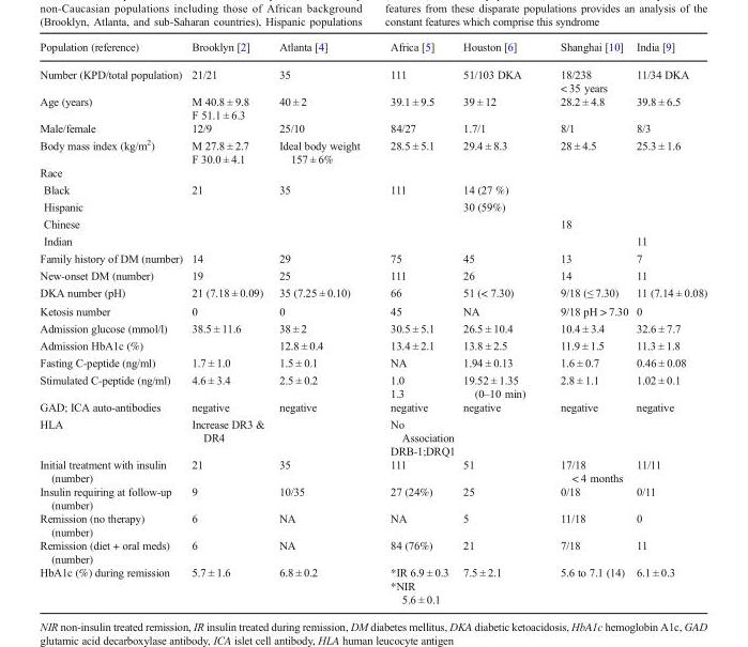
<table><thead><tr><td>Population (reference)</td><td>Brooklyn [2]</td><td>Atlanta [4]</td><td>Africa [5]</td><td>Houston [6]</td><td>Shanghai [10]</td><td>India [9]</td></tr></thead><tbody><tr><td>Number (KPD/total population)</td><td>21/21</td><td>35</td><td>111</td><td>51/103 DKA</td><td>18/238 &lt; 35 years</td><td>11/34 DKA</td></tr><tr><td>Age (years)</td><td>M 40.8 ± 9.8 F 51.1 ± 6.3</td><td>40 ± 2</td><td>39.1 ± 9.5</td><td>39 ± 12</td><td>28.2 ± 4.8</td><td>39.8 ± 6.5</td></tr><tr><td>Male/female</td><td>12/9</td><td>25/10</td><td>84/27</td><td>1.7/1</td><td>8/1</td><td>8/3</td></tr><tr><td>Body mass index (kg/m<sup>2</sup>)</td><td>M 27.8 ± 2.7 F 30.0 ± 4.1</td><td>Ideal body weight 157 ± 6%</td><td>28.5 ± 5.1</td><td>29.4 ± 8.3</td><td>28 ± 4.5</td><td>25.3 ± 1.6</td></tr><tr><td colspan="7">Race</td></tr><tr><td>Black</td><td>21</td><td>35</td><td>111</td><td>14 (27 %)</td><td></td><td></td></tr><tr><td>Hispanic</td><td></td><td></td><td></td><td>30 (59%)</td><td></td><td></td></tr><tr><td>Chinese</td><td></td><td></td><td></td><td></td><td>18</td><td></td></tr><tr><td>Indian</td><td></td><td></td><td></td><td></td><td></td><td>11</td></tr><tr><td>Family history of DM (number)</td><td>14</td><td>29</td><td>75</td><td>45</td><td>13</td><td>7</td></tr><tr><td>New-onset DM (number)</td><td>19</td><td>25</td><td>111</td><td>26</td><td>14</td><td>11</td></tr><tr><td>DKA number (pH)</td><td>21 (7.18 ± 0.09)</td><td>35 (7.25 ± 0.10)</td><td>66</td><td>51 (&lt; 7.30)</td><td>9/18 (≤ 7.30)</td><td>11 (7.14 ± 0.08)</td></tr><tr><td>Ketosis number</td><td>0</td><td>0</td><td>45</td><td>NA</td><td>9/18 pH &gt; 7.30</td><td>0</td></tr><tr><td>Admission glucose (mmol/l)</td><td>38.5 ± 11.6</td><td>38 ± 2</td><td>30.5 ± 5.1</td><td>26.5 ± 10.4</td><td>10.4 ± 3.4</td><td>32.6 ± 7.7</td></tr><tr><td>Admission HbA1c (%)</td><td></td><td>12.8 ± 0.4</td><td>13.4 ± 2.1</td><td>13.8 ± 2.5</td><td>11.9 ± 1.5</td><td>11.3 ± 1.8</td></tr><tr><td>Fasting C-peptide (ng/ml)</td><td>1.7 ± 1.0</td><td>1.5 ± 0.1</td><td>NA</td><td>1.94 ± 0.13</td><td>1.6 ± 0.7</td><td>0.46 ± 0.08</td></tr><tr><td>Stimulated C-peptide (ng/ml)</td><td>4.6 ± 3.4</td><td>2.5 ± 0.2</td><td>1.0 1.3</td><td>19.52 ± 1.35 (0–10 min)</td><td>2.8 ± 1.1</td><td>1.02 ± 0.1</td></tr><tr><td>GAD; ICA auto-antibodies</td><td>negative</td><td>negative</td><td>negative</td><td>negative</td><td>negative</td><td>negative</td></tr><tr><td>HLA</td><td>Increase DR3 &amp; DR4</td><td></td><td>No Association DRB-1;DRQ1</td><td></td><td></td><td></td></tr><tr><td>Initial treatment with insulin (number)</td><td>21</td><td>35</td><td>111</td><td>51</td><td>17/18 &lt; 4 months</td><td>11/11</td></tr><tr><td>Insulin requiring at follow-up (number)</td><td>9</td><td>10/35</td><td>27 (24%)</td><td>25</td><td>0/18</td><td>0/11</td></tr><tr><td>Remission (no therapy) (number)</td><td>6</td><td>NA</td><td>NA</td><td>5</td><td>11/18</td><td>0</td></tr><tr><td>Remission (diet + oral meds) (number)</td><td>6</td><td>NA</td><td>84 (76%)</td><td>21</td><td>7/18</td><td>11</td></tr><tr><td>HbA1c (%) during remission</td><td>5.7 ± 1.6</td><td>6.8 ± 0.2</td><td>*IR 6.9 ± 0.3 *NIR 5.6 ± 0.1</td><td>7.5 ± 2.1</td><td>5.6 to 7.1 (14)</td><td>6.1 ± 0.3</td></tr></tbody></table>